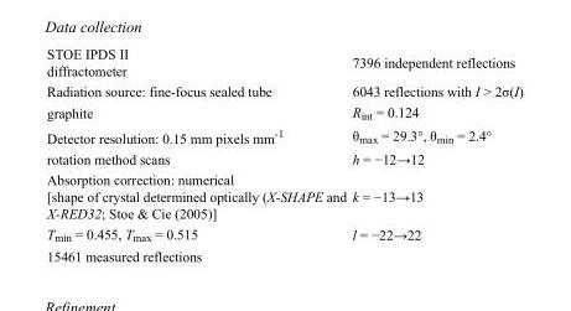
<table><tbody><tr><td>STOE IPDS II diffractometer</td><td>7396 independent reflections</td></tr><tr><td>Radiation source: fine-focus sealed tube</td><td>6043 reflections with I &gt; 2σ(I)</td></tr><tr><td>graphite</td><td>R<sub>int</sub> = 0.124</td></tr><tr><td>Detector resolution: 0.15 mm pixels mm<sup>-1</sup></td><td>θ<sub>max</sub> = 29.3°, θ<sub>min</sub> = 2.4°</td></tr><tr><td>rotation method scans</td><td>h = −12→12</td></tr><tr><td>Absorption correction: numerical [shape of crystal determined optically (X-SHAPE and X-RED32; Stoe &amp; Cie (2005)]</td><td>k = −13→13</td></tr><tr><td>T<sub>min</sub> = 0.455, T<sub>max</sub> = 0.515</td><td>l = −22→22</td></tr><tr><td>15461 measured reflections</td><td></td></tr></tbody></table>